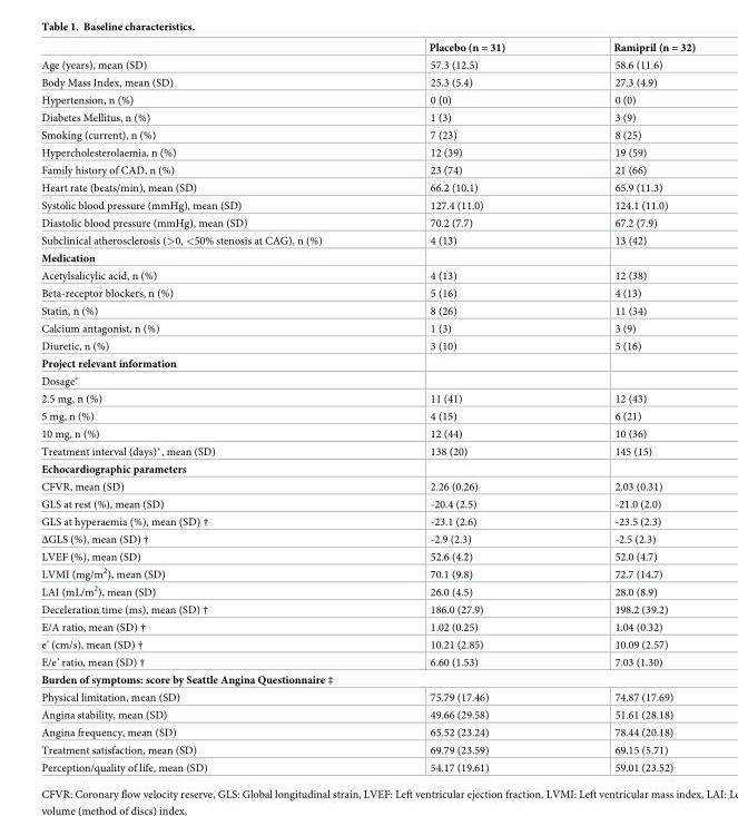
<table><thead><tr><td></td><td>Placebo (n = 31)</td><td>Ramipril (n = 32)</td></tr></thead><tbody><tr><td>Age (years), mean (SD)</td><td>57.3 (12.5)</td><td>58.6 (11.6)</td></tr><tr><td>Body Mass Index, mean (SD)</td><td>25.3 (5.4)</td><td>27.3 (4.9)</td></tr><tr><td>Hypertension, n (%)</td><td>0 (0)</td><td>0 (0)</td></tr><tr><td>Diabetes Mellitus, n (%)</td><td>1 (3)</td><td>3 (9)</td></tr><tr><td>Smoking (current), n (%)</td><td>7 (23)</td><td>8 (25)</td></tr><tr><td>Hypercholesterolaemia, n (%)</td><td>12 (39)</td><td>19 (59)</td></tr><tr><td>Family history of CAD, n (%)</td><td>23 (74)</td><td>21 (66)</td></tr><tr><td>Heart rate (beats/min), mean (SD)</td><td>66.2 (10.1)</td><td>65.9 (11.3)</td></tr><tr><td>Systolic blood pressure (mmHg), mean (SD)</td><td>127.4 (11.0)</td><td>124.1 (11.0)</td></tr><tr><td>Diastolic blood pressure (mmHg), mean (SD)</td><td>70.2 (7.7)</td><td>67.2 (7.9)</td></tr><tr><td>Subclinical atherosclerosis (&gt;0, &lt;50% stenosis at CAG), n (%)</td><td>4 (13)</td><td>13 (42)</td></tr><tr><td colspan="3">Medication</td></tr><tr><td>Acetylsalicylic acid, n (%)</td><td>4 (13)</td><td>12 (38)</td></tr><tr><td>Beta-receptor blockers, n (%)</td><td>5 (16)</td><td>4 (13)</td></tr><tr><td>Statin, n (%)</td><td>8 (26)</td><td>11 (34)</td></tr><tr><td>Calcium antagonist, n (%)</td><td>1 (3)</td><td>3 (9)</td></tr><tr><td>Diuretic, n (%)</td><td>3 (10)</td><td>5 (16)</td></tr><tr><td colspan="3">Project relevant information</td></tr><tr><td colspan="3">Dosage*</td></tr><tr><td>2.5 mg, n (%)</td><td>11 (41)</td><td>12 (43)</td></tr><tr><td>5 mg, n (%)</td><td>4 (15)</td><td>6 (21)</td></tr><tr><td>10 mg, n (%)</td><td>12 (44)</td><td>10 (36)</td></tr><tr><td>Treatment interval (days)*, mean (SD)</td><td>138 (20)</td><td>145 (15)</td></tr><tr><td colspan="3">Echocardiographic parameters</td></tr><tr><td>CFVR, mean (SD)</td><td>2.26 (0.26)</td><td>2.03 (0.31)</td></tr><tr><td>GLS at rest (%), mean (SD)</td><td>-20.4 (2.5)</td><td>-21.0 (2.0)</td></tr><tr><td>GLS at hyperaemia (%), mean (SD) †</td><td>-23.1 (2.6)</td><td>-23.5 (2.3)</td></tr><tr><td>ΔGLS (%), mean (SD) †</td><td>-2.9 (2.3)</td><td>-2.5 (2.3)</td></tr><tr><td>LVEF (%), mean (SD)</td><td>52.6 (4.2)</td><td>52.0 (4.7)</td></tr><tr><td>LVMI (mg/m<sup>2</sup>), mean (SD)</td><td>70.1 (9.8)</td><td>72.7 (14.7)</td></tr><tr><td>LAI (mL/m<sup>2</sup>), mean (SD)</td><td>26.0 (4.5)</td><td>28.0 (8.9)</td></tr><tr><td>Deceleration time (ms), mean (SD) †</td><td>186.0 (27.9)</td><td>198.2 (39.2)</td></tr><tr><td>E/A ratio, mean (SD) †</td><td>1.02 (0.25)</td><td>1.04 (0.32)</td></tr><tr><td>e’ (cm/s), mean (SD) †</td><td>10.21 (2.85)</td><td>10.09 (2.57)</td></tr><tr><td>E/e’ ratio, mean (SD) †</td><td>6.60 (1.53)</td><td>7.03 (1.30)</td></tr><tr><td colspan="3">Burden of symptoms: score by Seattle Angina Questionnaire ‡</td></tr><tr><td>Physical limitation, mean (SD)</td><td>75.79 (17.46)</td><td>74.87 (17.69)</td></tr><tr><td>Angina stability, mean (SD)</td><td>49.66 (29.58)</td><td>51.61 (28.18)</td></tr><tr><td>Angina frequency, mean (SD)</td><td>65.52 (23.24)</td><td>78.44 (20.18)</td></tr><tr><td>Treatment satisfaction, mean (SD)</td><td>69.79 (23.59)</td><td>69.15 (5.71)</td></tr><tr><td>Perception/quality of life, mean (SD)</td><td>54.17 (19.61)</td><td>59.01 (23.52)</td></tr></tbody></table>